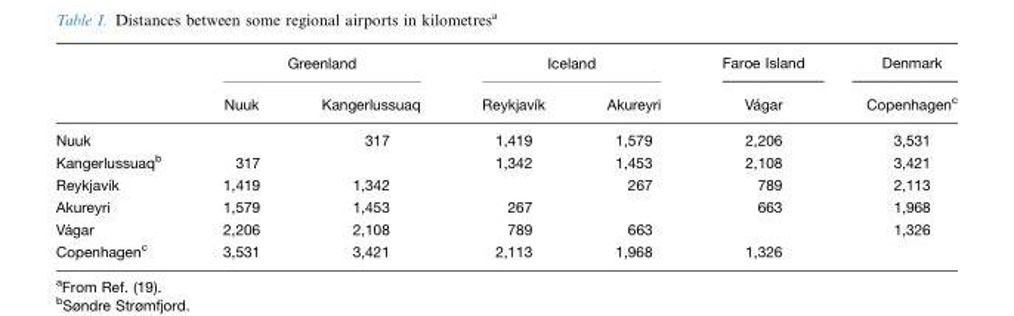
<table><thead><tr><td rowspan="2"></td><td colspan="2">Greenland</td><td colspan="2">Iceland</td><td rowspan="2">Faroe Island Va´ gar</td><td rowspan="2">Denmark Copenhagen<sup>c</sup></td></tr><tr><td>Nuuk</td><td>Kangerlussuaq</td><td>Reykjavı´k</td><td>Akureyri</td></tr></thead><tbody><tr><td>Nuuk</td><td></td><td>317</td><td>1,419</td><td>1,579</td><td>2,206</td><td>3,531</td></tr><tr><td>Kangerlussuaq<sup>b</sup></td><td>317</td><td></td><td>1,342</td><td>1,453</td><td>2,108</td><td>3,421</td></tr><tr><td>Reykjavı´k</td><td>1,419</td><td>1,342</td><td></td><td>267</td><td>789</td><td>2,113</td></tr><tr><td>Akureyri</td><td>1,579</td><td>1,453</td><td>267</td><td></td><td>663</td><td>1,968</td></tr><tr><td>Va´ gar</td><td>2,206</td><td>2,108</td><td>789</td><td>663</td><td></td><td>1,326</td></tr><tr><td>Copenhagen<sup>c</sup></td><td>3,531</td><td>3,421</td><td>2,113</td><td>1,968</td><td>1,326</td><td></td></tr></tbody></table>